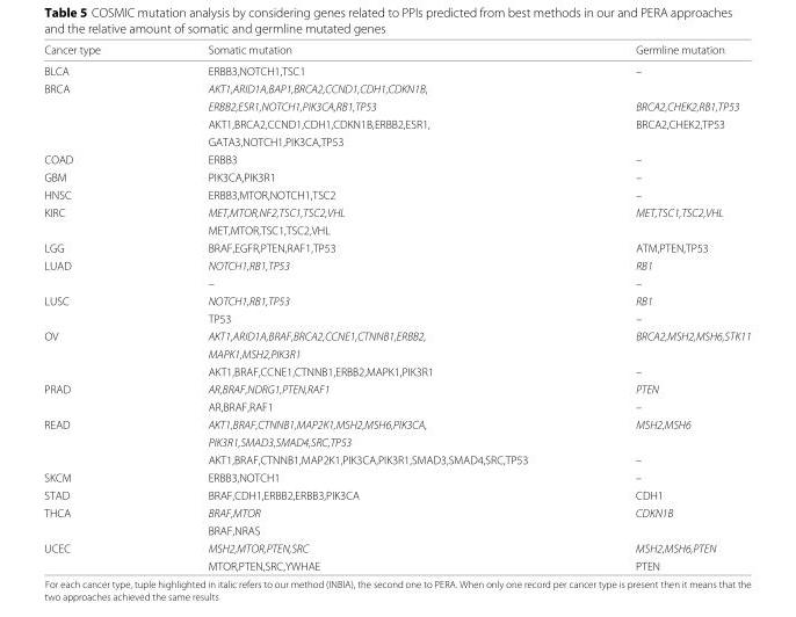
<table><thead><tr><td>Cancer type</td><td>Somatic mutation</td><td>Germline mutation</td></tr></thead><tbody><tr><td>BLCA</td><td>ERBB3,NOTCH1,TSC1</td><td>–</td></tr><tr><td rowspan="4">BRCA</td><td>AKT1,ARID1A,BAP1,BRCA2,CCND1,CDH1,CDKN1B,</td><td></td></tr><tr><td>ERBB2,ESR1,NOTCH1,PIK3CA,RB1,TP53</td><td>BRCA2,CHEK2,RB1,TP53</td></tr><tr><td>AKT1,BRCA2,CCND1,CDH1,CDKN1B,ERBB2,ESR1,</td><td>BRCA2,CHEK2,TP53</td></tr><tr><td>GATA3,NOTCH1,PIK3CA,TP53</td><td></td></tr><tr><td>COAD</td><td>ERBB3</td><td>–</td></tr><tr><td>GBM</td><td>PIK3CA,PIK3R1</td><td>–</td></tr><tr><td>HNSC</td><td>ERBB3,MTOR,NOTCH1,TSC2</td><td>–</td></tr><tr><td rowspan="2">KIRC</td><td>MET,MTOR,NF2,TSC1,TSC2,VHL</td><td>MET,TSC1,TSC2,VHL</td></tr><tr><td>MET,MTOR,TSC1,TSC2,VHL</td><td></td></tr><tr><td>LGG</td><td>BRAF,EGFR,PTEN,RAF1,TP53</td><td>ATM,PTEN,TP53</td></tr><tr><td rowspan="2">LUAD</td><td>NOTCH1,RB1,TP53</td><td>RB1</td></tr><tr><td>–</td><td>–</td></tr><tr><td rowspan="2">LUSC</td><td>NOTCH1,RB1,TP53</td><td>RB1</td></tr><tr><td>TP53</td><td>–</td></tr><tr><td rowspan="3">OV</td><td>AKT1,ARID1A,BRAF,BRCA2,CCNE1,CTNNB1,ERBB2,</td><td>BRCA2,MSH2,MSH6,STK11</td></tr><tr><td>MAPK1,MSH2,PIK3R1</td><td></td></tr><tr><td>AKT1,BRAF,CCNE1,CTNNB1,ERBB2,MAPK1,PIK3R1</td><td>–</td></tr><tr><td rowspan="2">PRAD</td><td>AR,BRAF,NDRG1,PTEN,RAF1</td><td>PTEN</td></tr><tr><td>AR,BRAF,RAF1</td><td>–</td></tr><tr><td rowspan="3">READ</td><td>AKT1,BRAF,CTNNB1,MAP2K1,MSH2,MSH6,PIK3CA,</td><td>MSH2,MSH6</td></tr><tr><td>PIK3R1,SMAD3,SMAD4,SRC,TP53</td><td></td></tr><tr><td>AKT1,BRAF,CTNNB1,MAP2K1,PIK3CA,PIK3R1,SMAD3,SMAD4,SRC,TP53</td><td>–</td></tr><tr><td>SKCM</td><td>ERBB3,NOTCH1</td><td>–</td></tr><tr><td>STAD</td><td>BRAF,CDH1,ERBB2,ERBB3,PIK3CA</td><td>CDH1</td></tr><tr><td rowspan="2">THCA</td><td>BRAF,MTOR</td><td>CDKN1B</td></tr><tr><td>BRAF,NRAS</td><td></td></tr><tr><td rowspan="2">UCEC</td><td>MSH2,MTOR,PTEN,SRC</td><td>MSH2,MSH6,PTEN</td></tr><tr><td>MTOR,PTEN,SRC,YWHAE</td><td>PTEN</td></tr></tbody></table>